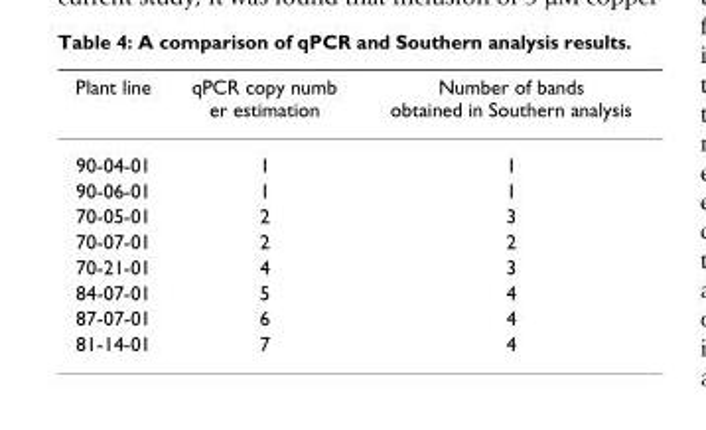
<table><thead><tr><td>Plant line</td><td>qPCR copy numb er estimation</td><td>Number of bands obtained in Southern analysis</td></tr></thead><tbody><tr><td>90-04-01</td><td>1</td><td>1</td></tr><tr><td>90-06-01</td><td>1</td><td>1</td></tr><tr><td>70-05-01</td><td>2</td><td>3</td></tr><tr><td>70-07-01</td><td>2</td><td>2</td></tr><tr><td>70-21-01</td><td>4</td><td>3</td></tr><tr><td>84-07-01</td><td>5</td><td>4</td></tr><tr><td>87-07-01</td><td>6</td><td>4</td></tr><tr><td>81-14-01</td><td>7</td><td>4</td></tr></tbody></table>